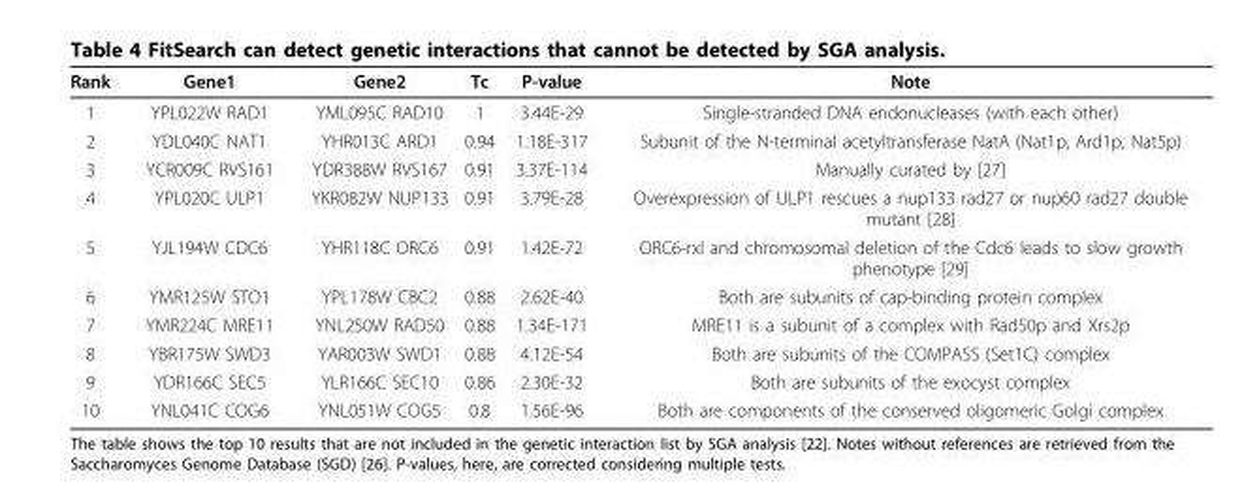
<table><thead><tr><td>Rank</td><td>Gene1</td><td>Gene2</td><td>Tc</td><td>P-value</td><td>Note</td></tr></thead><tbody><tr><td>1</td><td>YPL022W RAD1</td><td>YML095C RAD10</td><td>1</td><td>3.44E-29</td><td>Single-stranded DNA endonucleases (with each other)</td></tr><tr><td>2</td><td>YDL040C NAT1</td><td>YHR013C ARD1</td><td>0.94</td><td>1.18E-317</td><td>Subunit of the N-terminal acetyltransferase NatA (Nat1p, Ard1p, Nat5p)</td></tr><tr><td>3</td><td>YCR009C RVS161</td><td>YDR388W RVS167</td><td>0.91</td><td>3.37E-114</td><td>Manually curated by [27]</td></tr><tr><td>4</td><td>YPL020C ULP1</td><td>YKR082W NUP133</td><td>0.91</td><td>3.79E-28</td><td>Overexpression of ULP1 rescues a nup133 rad27 or nup60 rad27 double mutant [28]</td></tr><tr><td>5</td><td>YJL194W CDC6</td><td>YHR118C ORC6</td><td>0.91</td><td>1.42E-72</td><td>ORC6-rxl and chromosomal deletion of the Cdc6 leads to slow growth phenotype [29]</td></tr><tr><td>6</td><td>YMR125W STO1</td><td>YPL178W CBC2</td><td>0.88</td><td>2.62E-40</td><td>Both are subunits of cap-binding protein complex</td></tr><tr><td>7</td><td>YMR224C MRE11</td><td>YNL250W RAD50</td><td>0.88</td><td>1.34E-171</td><td>MRE11 is a subunit of a complex with Rad50p and Xrs2p</td></tr><tr><td>8</td><td>YBR175W SWD3</td><td>YAR003W SWD1</td><td>0.88</td><td>4.12E-54</td><td>Both are subunits of the COMPASS (Set1C) complex</td></tr><tr><td>9</td><td>YDR166C SEC5</td><td>YLR166C SEC10</td><td>0.86</td><td>2.30E-32</td><td>Both are subunits of the exocyst complex</td></tr><tr><td>10</td><td>YNL041C COG6</td><td>YNL051W COG5</td><td>0.8</td><td>1.56E-96</td><td>Both are components of the conserved oligomeric Golgi complex</td></tr></tbody></table>